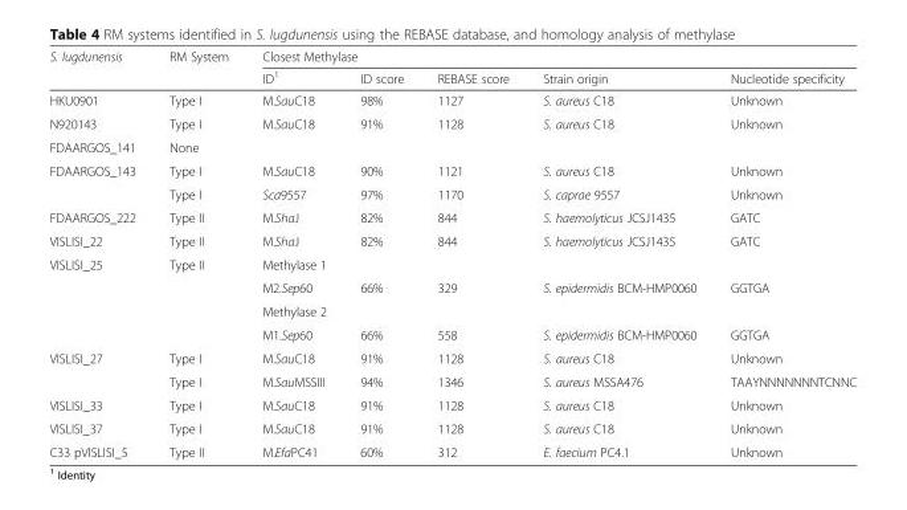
<table><thead><tr><td rowspan="2">S. lugdunensis</td><td rowspan="2">RM System</td><td colspan="5">Closest Methylase</td></tr><tr><td>ID<sup>1</sup></td><td>ID score</td><td>REBASE score</td><td>Strain origin</td><td>Nucleotide specificity</td></tr></thead><tbody><tr><td>HKU0901</td><td>Type I</td><td>M.SauC18</td><td>98%</td><td>1127</td><td>S. aureus C18</td><td>Unknown</td></tr><tr><td>N920143</td><td>Type I</td><td>M.SauC18</td><td>91%</td><td>1128</td><td>S. aureus C18</td><td>Unknown</td></tr><tr><td>FDAARGOS_141</td><td>None</td><td></td><td></td><td></td><td></td><td></td></tr><tr><td rowspan="2">FDAARGOS_143</td><td>Type I</td><td>M.SauC18</td><td>90%</td><td>1121</td><td>S. aureus C18</td><td>Unknown</td></tr><tr><td>Type I</td><td>Sca9557</td><td>97%</td><td>1170</td><td>S. caprae 9557</td><td>Unknown</td></tr><tr><td>FDAARGOS_222</td><td>Type II</td><td>M.ShaJ</td><td>82%</td><td>844</td><td>S. haemolyticus JCSJ1435</td><td>GATC</td></tr><tr><td>VISLISI_22</td><td>Type II</td><td>M.ShaJ</td><td>82%</td><td>844</td><td>S. haemolyticus JCSJ1435</td><td>GATC</td></tr><tr><td rowspan="4">VISLISI_25</td><td rowspan="4">Type II</td><td>Methylase 1</td><td colspan="4"></td></tr><tr><td>M2.Sep60</td><td>66%</td><td>329</td><td>S. epidermidis BCM-HMP0060</td><td>GGTGA</td></tr><tr><td>Methylase 2</td><td colspan="4"></td></tr><tr><td>M1.Sep60</td><td>66%</td><td>558</td><td>S. epidermidis BCM-HMP0060</td><td>GGTGA</td></tr><tr><td rowspan="2">VISLISI_27</td><td>Type I</td><td>M.SauC18</td><td>91%</td><td>1128</td><td>S. aureus C18</td><td>Unknown</td></tr><tr><td>Type I</td><td>M.SauMSSIII</td><td>94%</td><td>1346</td><td>S. aureus MSSA476</td><td>TAAYNNNNNNNTCNNC</td></tr><tr><td>VISLISI_33</td><td>Type I</td><td>M.SauC18</td><td>91%</td><td>1128</td><td>S. aureus C18</td><td>Unknown</td></tr><tr><td>VISLISI_37</td><td>Type I</td><td>M.SauC18</td><td>91%</td><td>1128</td><td>S. aureus C18</td><td>Unknown</td></tr><tr><td>C33 pVISLISI_5</td><td>Type II</td><td>M.EfaPC41</td><td>60%</td><td>312</td><td>E. faecium PC4.1</td><td>Unknown</td></tr></tbody></table>